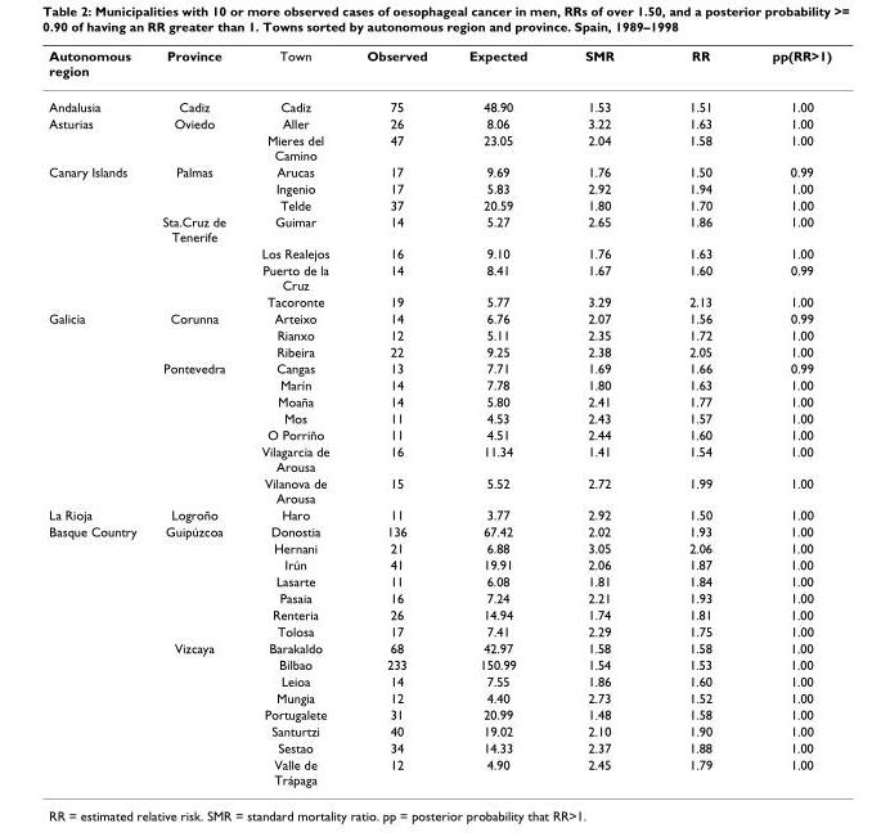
<table><thead><tr><td>Autonomous region</td><td>Province</td><td>Town</td><td>Observed</td><td>Expected</td><td>SMR</td><td>RR</td><td>pp(RR&gt;1)</td></tr></thead><tbody><tr><td>Andalusia</td><td>Cadiz</td><td>Cadiz</td><td>75</td><td>48.90</td><td>1.53</td><td>1.51</td><td>1.00</td></tr><tr><td rowspan="2">Asturias</td><td>Oviedo</td><td>Aller</td><td>26</td><td>8.06</td><td>3.22</td><td>1.63</td><td>1.00</td></tr><tr><td></td><td>Mieres del Camino</td><td>47</td><td>23.05</td><td>2.04</td><td>1.58</td><td>1.00</td></tr><tr><td rowspan="7">Canary Islands</td><td>Palmas</td><td>Arucas</td><td>17</td><td>9.69</td><td>1.76</td><td>1.50</td><td>0.99</td></tr><tr><td></td><td>Ingenio</td><td>17</td><td>5.83</td><td>2.92</td><td>1.94</td><td>1.00</td></tr><tr><td></td><td>Telde</td><td>37</td><td>20.59</td><td>1.80</td><td>1.70</td><td>1.00</td></tr><tr><td>Sta.Cruz de Tenerife</td><td>Guimar</td><td>14</td><td>5.27</td><td>2.65</td><td>1.86</td><td>1.00</td></tr><tr><td></td><td>Los Realejos</td><td>16</td><td>9.10</td><td>1.76</td><td>1.63</td><td>1.00</td></tr><tr><td></td><td>Puerto de la Cruz</td><td>14</td><td>8.41</td><td>1.67</td><td>1.60</td><td>0.99</td></tr><tr><td></td><td>Tacoronte</td><td>19</td><td>5.77</td><td>3.29</td><td>2.13</td><td>1.00</td></tr><tr><td rowspan="10">Galicia</td><td>Corunna</td><td>Arteixo</td><td>14</td><td>6.76</td><td>2.07</td><td>1.56</td><td>0.99</td></tr><tr><td></td><td>Rianxo</td><td>12</td><td>5.11</td><td>2.35</td><td>1.72</td><td>1.00</td></tr><tr><td></td><td>Ribeira</td><td>22</td><td>9.25</td><td>2.38</td><td>2.05</td><td>1.00</td></tr><tr><td>Pontevedra</td><td>Cangas</td><td>13</td><td>7.71</td><td>1.69</td><td>1.66</td><td>0.99</td></tr><tr><td></td><td>Marín</td><td>14</td><td>7.78</td><td>1.80</td><td>1.63</td><td>1.00</td></tr><tr><td></td><td>Moaña</td><td>14</td><td>5.80</td><td>2.41</td><td>1.77</td><td>1.00</td></tr><tr><td></td><td>Mos</td><td>11</td><td>4.53</td><td>2.43</td><td>1.57</td><td>1.00</td></tr><tr><td></td><td>O Porriño</td><td>11</td><td>4.51</td><td>2.44</td><td>1.60</td><td>1.00</td></tr><tr><td></td><td>Vilagarcia de Arousa</td><td>16</td><td>11.34</td><td>1.41</td><td>1.54</td><td>1.00</td></tr><tr><td></td><td>Vilanova de Arousa</td><td>15</td><td>5.52</td><td>2.72</td><td>1.99</td><td>1.00</td></tr><tr><td>La Rioja</td><td>Logroño</td><td>Haro</td><td>11</td><td>3.77</td><td>2.92</td><td>1.50</td><td>1.00</td></tr><tr><td rowspan="15">Basque Country</td><td>Guipúzcoa</td><td>Donostia</td><td>136</td><td>67.42</td><td>2.02</td><td>1.93</td><td>1.00</td></tr><tr><td></td><td>Hernani</td><td>21</td><td>6.88</td><td>3.05</td><td>2.06</td><td>1.00</td></tr><tr><td></td><td>Irún</td><td>41</td><td>19.91</td><td>2.06</td><td>1.87</td><td>1.00</td></tr><tr><td></td><td>Lasarte</td><td>11</td><td>6.08</td><td>1.81</td><td>1.84</td><td>1.00</td></tr><tr><td></td><td>Pasaia</td><td>16</td><td>7.24</td><td>2.21</td><td>1.93</td><td>1.00</td></tr><tr><td></td><td>Renteria</td><td>26</td><td>14.94</td><td>1.74</td><td>1.81</td><td>1.00</td></tr><tr><td></td><td>Tolosa</td><td>17</td><td>7.41</td><td>2.29</td><td>1.75</td><td>1.00</td></tr><tr><td>Vizcaya</td><td>Barakaldo</td><td>68</td><td>42.97</td><td>1.58</td><td>1.58</td><td>1.00</td></tr><tr><td></td><td>Bilbao</td><td>233</td><td>150.99</td><td>1.54</td><td>1.53</td><td>1.00</td></tr><tr><td></td><td>Leioa</td><td>14</td><td>7.55</td><td>1.86</td><td>1.60</td><td>1.00</td></tr><tr><td></td><td>Mungia</td><td>12</td><td>4.40</td><td>2.73</td><td>1.52</td><td>1.00</td></tr><tr><td></td><td>Portugalete</td><td>31</td><td>20.99</td><td>1.48</td><td>1.58</td><td>1.00</td></tr><tr><td></td><td>Santurtzi</td><td>40</td><td>19.02</td><td>2.10</td><td>1.90</td><td>1.00</td></tr><tr><td></td><td>Sestao</td><td>34</td><td>14.33</td><td>2.37</td><td>1.88</td><td>1.00</td></tr><tr><td></td><td>Valle de Trápaga</td><td>12</td><td>4.90</td><td>2.45</td><td>1.79</td><td>1.00</td></tr></tbody></table>